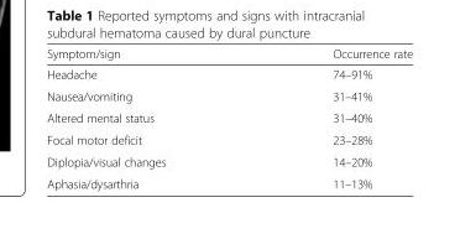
<table><thead><tr><td>Symptom/sign</td><td>Occurrence rate</td></tr></thead><tbody><tr><td>Headache</td><td>74–91%</td></tr><tr><td>Nausea/vomiting</td><td>31–41%</td></tr><tr><td>Altered mental status</td><td>31–40%</td></tr><tr><td>Focal motor deficit</td><td>23–28%</td></tr><tr><td>Diplopia/visual changes</td><td>14–20%</td></tr><tr><td>Aphasia/dysarthria</td><td>11–13%</td></tr></tbody></table>